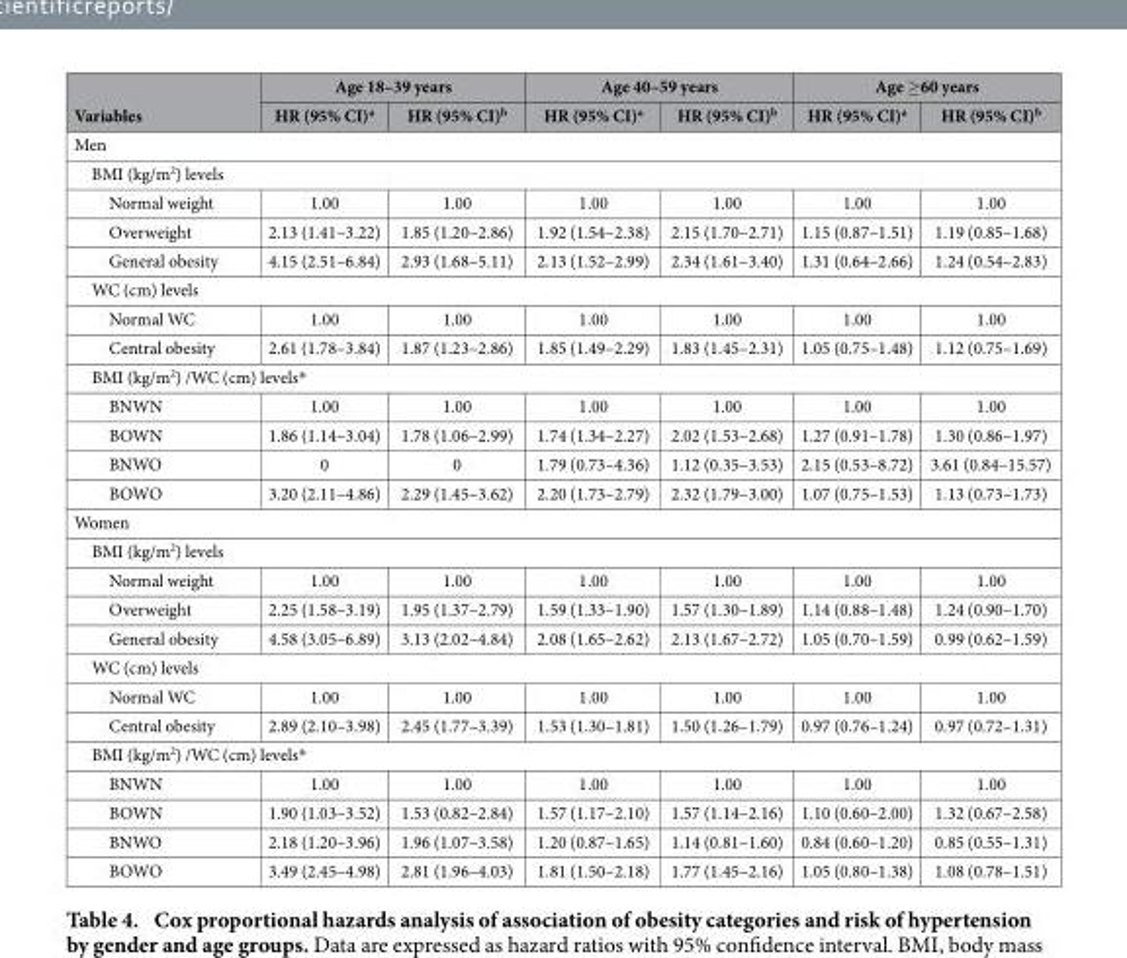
<table><thead><tr><td rowspan="2">Variables</td><td colspan="2">Age 18–39 years</td><td colspan="2">Age 40–59 years</td><td colspan="2">Age ≥ 60 years</td></tr><tr><td>HR (95% CI)<sup>a</sup></td><td>HR (95% CI)<sup>b</sup></td><td>HR (95% CI)<sup>a</sup></td><td>HR (95% CI)<sup>b</sup></td><td>HR (95% CI)<sup>a</sup></td><td>HR (95% CI)<sup>b</sup></td></tr></thead><tbody><tr><td colspan="7">Men</td></tr><tr><td colspan="7">BMI (kg/m<sup>2</sup>) levels</td></tr><tr><td>Normal weight</td><td>1.00</td><td>1.00</td><td>1.00</td><td>1.00</td><td>1.00</td><td>1.00</td></tr><tr><td>Overweight</td><td>2.13 (1.41–3.22)</td><td>1.85 (1.20–2.86)</td><td>1.92 (1.54–2.38)</td><td>2.15 (1.70–2.71)</td><td>1.15 (0.87–1.51)</td><td>1.19 (0.85–1.68)</td></tr><tr><td>General obesity</td><td>4.15 (2.51–6.84)</td><td>2.93 (1.68–5.11)</td><td>2.13 (1.52–2.99)</td><td>2.34 (1.61–3.40)</td><td>1.31 (0.64–2.66)</td><td>1.24 (0.54–2.83)</td></tr><tr><td colspan="7">WC (cm) levels</td></tr><tr><td>Normal WC</td><td>1.00</td><td>1.00</td><td>1.00</td><td>1.00</td><td>1.00</td><td>1.00</td></tr><tr><td>Central obesity</td><td>2.61 (1.78–3.84)</td><td>1.87 (1.23–2.86)</td><td>1.85 (1.49–2.29)</td><td>1.83 (1.45–2.31)</td><td>1.05 (0.75–1.48)</td><td>1.12 (0.75–1.69)</td></tr><tr><td colspan="7">BMI (kg/m<sup>2</sup>) /WC (cm) levels*</td></tr><tr><td>BNWN</td><td>1.00</td><td>1.00</td><td>1.00</td><td>1.00</td><td>1.00</td><td>1.00</td></tr><tr><td>BOWN</td><td>1.86 (1.14–3.04)</td><td>1.78 (1.06–2.99)</td><td>1.74 (1.34–2.27)</td><td>2.02 (1.53–2.68)</td><td>1.27 (0.91–1.78)</td><td>1.30 (0.86–1.97)</td></tr><tr><td>BNWO</td><td>0</td><td>0</td><td>1.79 (0.73–4.36)</td><td>1.12 (0.35–3.53)</td><td>2.15 (0.53–8.72)</td><td>3.61 (0.84–15.57)</td></tr><tr><td>BOWO</td><td>3.20 (2.11–4.86)</td><td>2.29 (1.45–3.62)</td><td>2.20 (1.73–2.79)</td><td>2.32 (1.79–3.00)</td><td>1.07 (0.75–1.53)</td><td>1.13 (0.73–1.73)</td></tr><tr><td colspan="7">Women</td></tr><tr><td colspan="7">BMI (kg/m<sup>2</sup>) levels</td></tr><tr><td>Normal weight</td><td>1.00</td><td>1.00</td><td>1.00</td><td>1.00</td><td>1.00</td><td>1.00</td></tr><tr><td>Overweight</td><td>2.25 (1.58–3.19)</td><td>1.95 (1.37–2.79)</td><td>1.59 (1.33–1.90)</td><td>1.57 (1.30–1.89)</td><td>1.14 (0.88–1.48)</td><td>1.24 (0.90–1.70)</td></tr><tr><td>General obesity</td><td>4.58 (3.05–6.89)</td><td>3.13 (2.02–4.84)</td><td>2.08 (1.65–2.62)</td><td>2.13 (1.67–2.72)</td><td>1.05 (0.70–1.59)</td><td>0.99 (0.62–1.59)</td></tr><tr><td colspan="7">WC (cm) levels</td></tr><tr><td>Normal WC</td><td>1.00</td><td>1.00</td><td>1.00</td><td>1.00</td><td>1.00</td><td>1.00</td></tr><tr><td>Central obesity</td><td>2.89 (2.10–3.98)</td><td>2.45 (1.77–3.39)</td><td>1.53 (1.30–1.81)</td><td>1.50 (1.26–1.79)</td><td>0.97 (0.76–1.24)</td><td>0.97 (0.72–1.31)</td></tr><tr><td colspan="7">BMI (kg/m<sup>2</sup>) /WC (cm) levels*</td></tr><tr><td>BNWN</td><td>1.00</td><td>1.00</td><td>1.00</td><td>1.00</td><td>1.00</td><td>1.00</td></tr><tr><td>BOWN</td><td>1.90 (1.03–3.52)</td><td>1.53 (0.82–2.84)</td><td>1.57 (1.17–2.10)</td><td>1.57 (1.14–2.16)</td><td>1.10 (0.60–2.00)</td><td>1.32 (0.67–2.58)</td></tr><tr><td>BNWO</td><td>2.18 (1.20–3.96)</td><td>1.96 (1.07–3.58)</td><td>1.20 (0.87–1.65)</td><td>1.14 (0.81–1.60)</td><td>0.84 (0.60–1.20)</td><td>0.85 (0.55–1.31)</td></tr><tr><td>BOWO</td><td>3.49 (2.45–4.98)</td><td>2.81 (1.96–4.03)</td><td>1.81 (1.50–2.18)</td><td>1.77 (1.45–2.16)</td><td>1.05 (0.80–1.38)</td><td>1.08 (0.78–1.51)</td></tr></tbody></table>